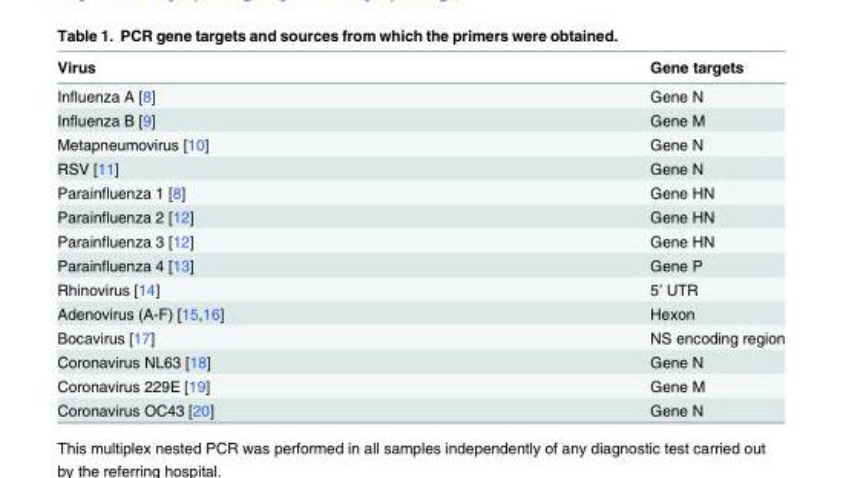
<table><thead><tr><td>Virus</td><td>Gene targets</td></tr></thead><tbody><tr><td>Influenza A [8]</td><td>Gene N</td></tr><tr><td>Influenza B [9]</td><td>Gene M</td></tr><tr><td>Metapneumovirus [10]</td><td>Gene N</td></tr><tr><td>RSV [11]</td><td>Gene N</td></tr><tr><td>Parainfluenza 1 [8]</td><td>Gene HN</td></tr><tr><td>Parainfluenza 2 [12]</td><td>Gene HN</td></tr><tr><td>Parainfluenza 3 [12]</td><td>Gene HN</td></tr><tr><td>Parainfluenza 4 [13]</td><td>Gene P</td></tr><tr><td>Rhinovirus [14]</td><td>5’ UTR</td></tr><tr><td>Adenovirus (A-F) [15,16]</td><td>Hexon</td></tr><tr><td>Bocavirus [17]</td><td>NS encoding region</td></tr><tr><td>Coronavirus NL63 [18]</td><td>Gene N</td></tr><tr><td>Coronavirus 229E [19]</td><td>Gene M</td></tr><tr><td>Coronavirus OC43 [20]</td><td>Gene N</td></tr></tbody></table>